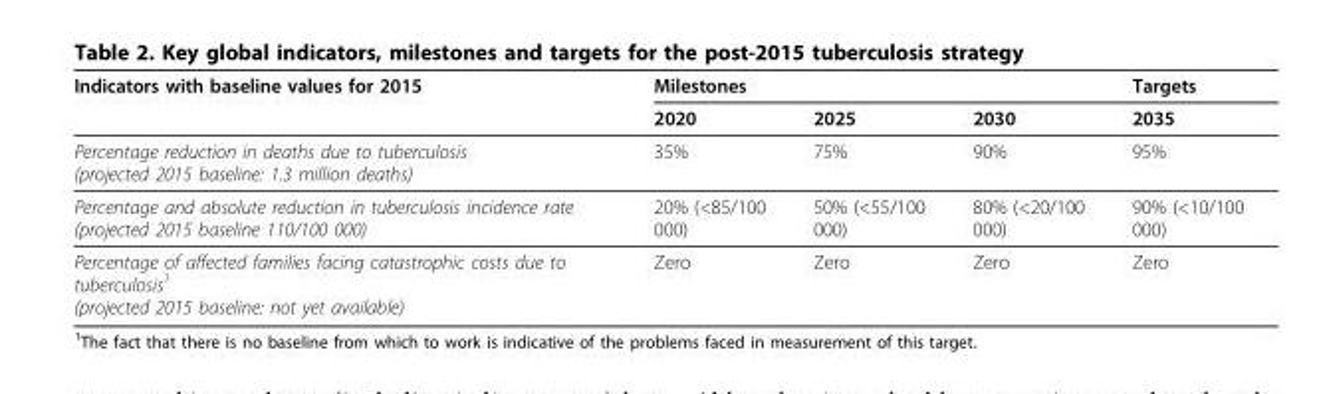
<table><thead><tr><td rowspan="2">Indicators with baseline values for 2015</td><td colspan="3">Milestones</td><td rowspan="2">Targets 2035</td></tr><tr><td>2020</td><td>2025</td><td>2030</td></tr></thead><tbody><tr><td>Percentage reduction in deaths due to tuberculosis (projected 2015 baseline: 1.3 million deaths)</td><td>35%</td><td>75%</td><td>90%</td><td>95%</td></tr><tr><td>Percentage and absolute reduction in tuberculosis incidence rate (projected 2015 baseline 110/100 000)</td><td>20% (&lt;85/100 000)</td><td>50% (&lt;55/100 000)</td><td>80% (&lt;20/100 000)</td><td>90% (&lt;10/100 000)</td></tr><tr><td>Percentage of affected families facing catastrophic costs due to tuberculosis<sup>1</sup> (projected 2015 baseline: not yet available)</td><td>Zero</td><td>Zero</td><td>Zero</td><td>Zero</td></tr></tbody></table>